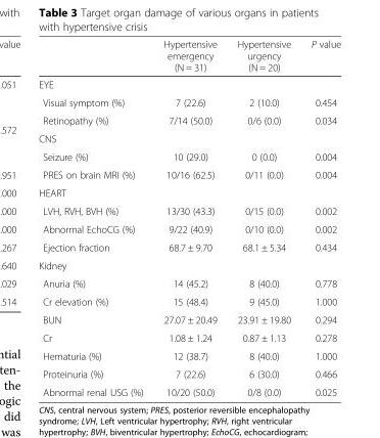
<table><thead><tr><td></td><td>Hypertensive emergency (N = 31)</td><td>Hypertensive urgency (N = 20)</td><td>P value</td></tr></thead><tbody><tr><td colspan="4">EYE</td></tr><tr><td>Visual symptom (%)</td><td>7 (22.6)</td><td>2 (10.0)</td><td>0.454</td></tr><tr><td>Retinopathy (%)</td><td>7/14 (50.0)</td><td>0/6 (0.0)</td><td>0.034</td></tr><tr><td colspan="4">CNS</td></tr><tr><td>Seizure (%)</td><td>10 (29.0)</td><td>0 (0.0)</td><td>0.004</td></tr><tr><td>PRES on brain MRI (%)</td><td>10/16 (62.5)</td><td>0/11 (0.0)</td><td>0.004</td></tr><tr><td colspan="4">HEART</td></tr><tr><td>LVH, RVH, BVH (%)</td><td>13/30 (43.3)</td><td>0/15 (0.0)</td><td>0.002</td></tr><tr><td>Abnormal EchoCG (%)</td><td>9/22 (40.9)</td><td>0/10 (0.0)</td><td>0.002</td></tr><tr><td>Ejection fraction</td><td>68.7 ± 9.70</td><td>68.1 ± 5.34</td><td>0.434</td></tr><tr><td colspan="4">Kidney</td></tr><tr><td>Anuria (%)</td><td>14 (45.2)</td><td>8 (40.0)</td><td>0.778</td></tr><tr><td>Cr elevation (%)</td><td>15 (48.4)</td><td>9 (45.0)</td><td>1.000</td></tr><tr><td>BUN</td><td>27.07 ± 20.49</td><td>23.91 ± 19.80</td><td>0.294</td></tr><tr><td>Cr</td><td>1.08 ± 1.24</td><td>0.87 ± 1.13</td><td>0.278</td></tr><tr><td>Hematuria (%)</td><td>12 (38.7)</td><td>8 (40.0)</td><td>1.000</td></tr><tr><td>Proteinuria (%)</td><td>7 (22.6)</td><td>6 (30.0)</td><td>0.466</td></tr><tr><td>Abnormal renal USG (%)</td><td>10/20 (50.0)</td><td>0/8 (0.0)</td><td>0.025</td></tr></tbody></table>